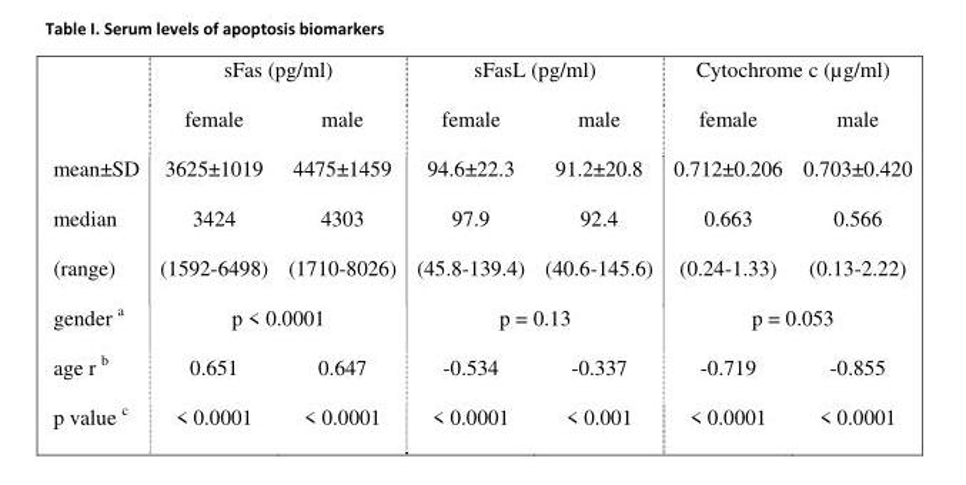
<table><thead><tr><td rowspan="2"></td><td colspan="2">sFas (pg/ml)</td><td colspan="2">sFasL (pg/ml)</td><td colspan="2">Cytochrome c (µg/ml)</td></tr><tr><td>female</td><td>male</td><td>female</td><td>male</td><td>female</td><td>male</td></tr></thead><tbody><tr><td>mean±SD median (range)</td><td>3625±1019 3424 (1592-6498)</td><td>4475±1459 4303 (1710-8026)</td><td>94.6±22.3 97.9 (45.8-139.4)</td><td>91.2±20.8 92.4 (40.6-145.6)</td><td>0.712±0.206 0.663 (0.24-1.33)</td><td>0.703±0.420 0.566 (0.13-2.22)</td></tr><tr><td>gender <sup>a</sup></td><td colspan="2">p &lt; 0.0001</td><td colspan="2">p = 0.13</td><td colspan="2">p = 0.053</td></tr><tr><td>age r <sup>b</sup></td><td>0.651</td><td>0.647</td><td>-0.534</td><td>-0.337</td><td>-0.719</td><td>-0.855</td></tr><tr><td>p value <sup>c</sup></td><td>&lt; 0.0001</td><td>&lt; 0.0001</td><td>&lt; 0.0001</td><td>&lt; 0.001</td><td>&lt; 0.0001</td><td>&lt; 0.0001</td></tr></tbody></table>